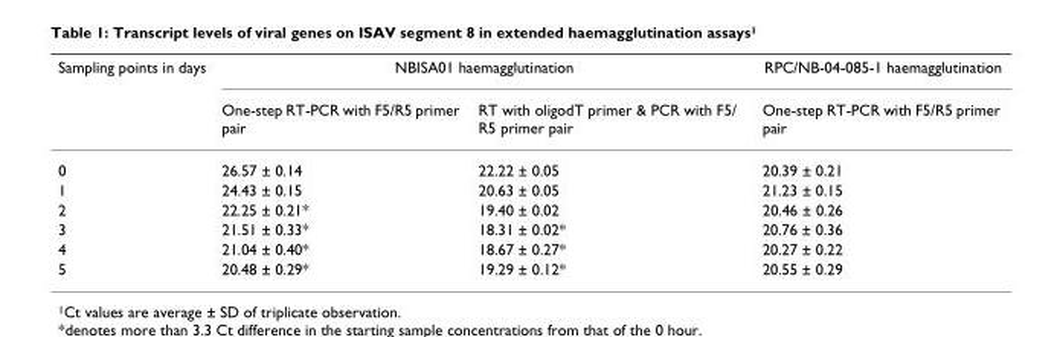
<table><thead><tr><td rowspan="2">Sampling points in days</td><td colspan="2">NBISA01 haemagglutination</td><td rowspan="2">RPC/NB-04-085-1 haemagglutination One-step RT-PCR with F5/R5 primer pair</td></tr><tr><td>One-step RT-PCR with F5/R5 primer pair</td><td>RT with oligodT primer &amp; PCR with F5/ R5 primer pair</td></tr></thead><tbody><tr><td>0</td><td>26.57 ± 0.14</td><td>22.22 ± 0.05</td><td>20.39 ± 0.21</td></tr><tr><td>1</td><td>24.43 ± 0.15</td><td>20.63 ± 0.05</td><td>21.23 ± 0.15</td></tr><tr><td>2</td><td>22.25 ± 0.21*</td><td>19.40 ± 0.02</td><td>20.46 ± 0.26</td></tr><tr><td>3</td><td>21.51 ± 0.33*</td><td>18.31 ± 0.02*</td><td>20.76 ± 0.36</td></tr><tr><td>4</td><td>21.04 ± 0.40*</td><td>18.67 ± 0.27*</td><td>20.27 ± 0.22</td></tr><tr><td>5</td><td>20.48 ± 0.29*</td><td>19.29 ± 0.12*</td><td>20.55 ± 0.29</td></tr></tbody></table>